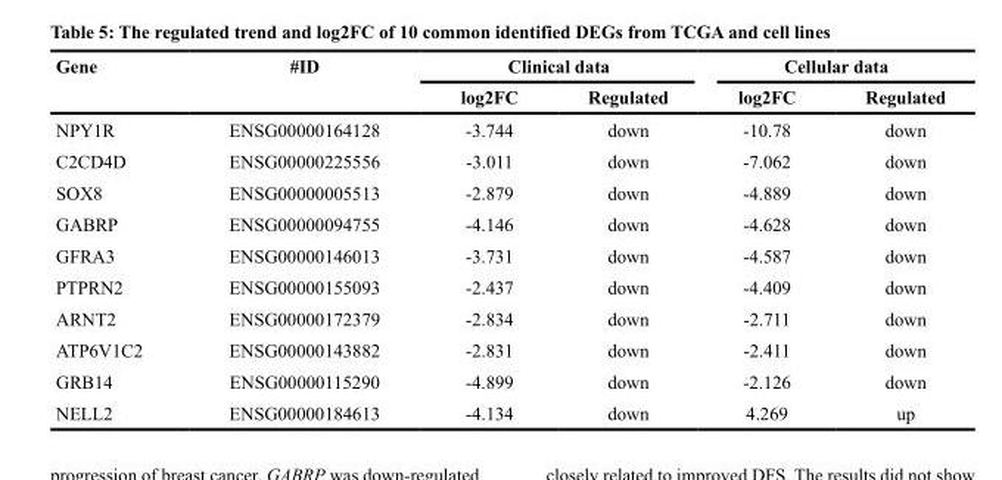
<table><thead><tr><td rowspan="2">Gene</td><td rowspan="2">#ID</td><td colspan="2">Clinical data</td><td colspan="2">Cellular data</td></tr><tr><td>log2FC</td><td>Regulated</td><td>log2FC</td><td>Regulated</td></tr></thead><tbody><tr><td>NPY1R</td><td>ENSG00000164128</td><td>-3.744</td><td>down</td><td>-10.78</td><td>down</td></tr><tr><td>C2CD4D</td><td>ENSG00000225556</td><td>-3.011</td><td>down</td><td>-7.062</td><td>down</td></tr><tr><td>SOX8</td><td>ENSG00000005513</td><td>-2.879</td><td>down</td><td>-4.889</td><td>down</td></tr><tr><td>GABRP</td><td>ENSG00000094755</td><td>-4.146</td><td>down</td><td>-4.628</td><td>down</td></tr><tr><td>GFRA3</td><td>ENSG00000146013</td><td>-3.731</td><td>down</td><td>-4.587</td><td>down</td></tr><tr><td>PTPRN2</td><td>ENSG00000155093</td><td>-2.437</td><td>down</td><td>-4.409</td><td>down</td></tr><tr><td>ARNT2</td><td>ENSG00000172379</td><td>-2.834</td><td>down</td><td>-2.711</td><td>down</td></tr><tr><td>ATP6V1C2</td><td>ENSG00000143882</td><td>-2.831</td><td>down</td><td>-2.411</td><td>down</td></tr><tr><td>GRB14</td><td>ENSG00000115290</td><td>-4.899</td><td>down</td><td>-2.126</td><td>down</td></tr><tr><td>NELL2</td><td>ENSG00000184613</td><td>-4.134</td><td>down</td><td>4.269</td><td>up</td></tr></tbody></table>